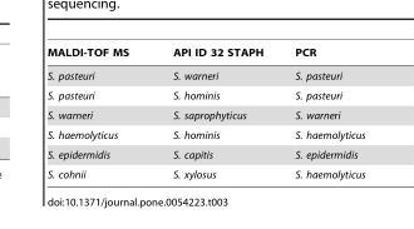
<table><thead><tr><td>MALDI-TOF MS</td><td>API ID 32 STAPH</td><td>PCR</td></tr></thead><tbody><tr><td>S. pasteuri</td><td>S. warneri</td><td>S. pasteuri</td></tr><tr><td>S. pasteuri</td><td>S. hominis</td><td>S. pasteuri</td></tr><tr><td>S. warneri</td><td>S. saprophyticus</td><td>S. warneri</td></tr><tr><td>S. haemolyticus</td><td>S. hominis</td><td>S. haemolyticus</td></tr><tr><td>S. epidermidis</td><td>S. capitis</td><td>S. epidermidis</td></tr><tr><td>S. cohnii</td><td>S. xylosus</td><td>S. haemolyticus</td></tr></tbody></table>